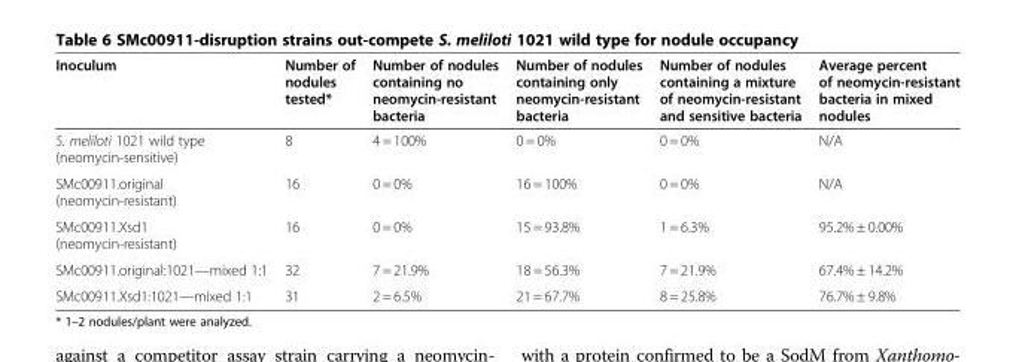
<table><thead><tr><td>Inoculum</td><td>Number of nodules tested*</td><td>Number of nodules containing no neomycin-resistant bacteria</td><td>Number of nodules containing only neomycin-resistant bacteria</td><td>Number of nodules containing a mixture of neomycin-resistant and sensitive bacteria</td><td>Average percent of neomycin-resistant bacteria in mixed nodules</td></tr></thead><tbody><tr><td>S. meliloti 1021 wild type (neomycin-sensitive)</td><td>8</td><td>4 = 100%</td><td>0 = 0%</td><td>0 = 0%</td><td>N/A</td></tr><tr><td>SMc00911.original (neomycin-resistant)</td><td>16</td><td>0 = 0%</td><td>16 = 100%</td><td>0 = 0%</td><td>N/A</td></tr><tr><td>SMc00911.Xsd1 (neomycin-resistant)</td><td>16</td><td>0 = 0%</td><td>15 = 93.8%</td><td>1 = 6.3%</td><td>95.2% ± 0.00%</td></tr><tr><td>SMc00911.original:1021—mixed 1:1</td><td>32</td><td>7 = 21.9%</td><td>18 = 56.3%</td><td>7 = 21.9%</td><td>67.4% ± 14.2%</td></tr><tr><td>SMc00911.Xsd1:1021—mixed 1:1</td><td>31</td><td>2 = 6.5%</td><td>21 = 67.7%</td><td>8 = 25.8%</td><td>76.7% ± 9.8%</td></tr></tbody></table>